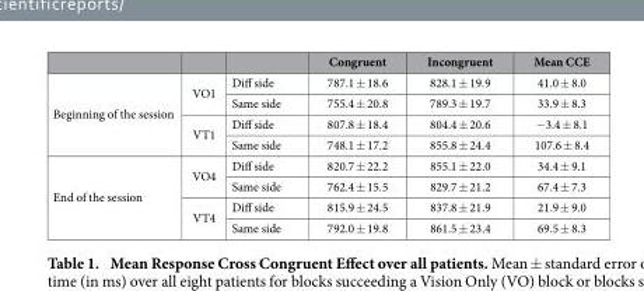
<table><thead><tr><td></td><td></td><td></td><td>Congruent</td><td>Incongruent</td><td>Mean CCE</td></tr></thead><tbody><tr><td rowspan="4">Beginning of the session</td><td rowspan="2">VO1</td><td>Diff side</td><td>787.1 ± 18.6</td><td>828.1 ± 19.9</td><td>41.0 ± 8.0</td></tr><tr><td>Same side</td><td>755.4 ± 20.8</td><td>789.3 ± 19.7</td><td>33.9 ± 8.3</td></tr><tr><td rowspan="2">VT1</td><td>Diff side</td><td>807.8 ± 18.4</td><td>804.4 ± 20.6</td><td>− 3.4 ± 8.1</td></tr><tr><td>Same side</td><td>748.1 ± 17.2</td><td>855.8 ± 24.4</td><td>107.6 ± 8.4</td></tr><tr><td rowspan="4">End of the session</td><td rowspan="2">VO4</td><td>Diff side</td><td>820.7 ± 22.2</td><td>855.1 ± 22.0</td><td>34.4 ± 9.1</td></tr><tr><td>Same side</td><td>762.4 ± 15.5</td><td>829.7 ± 21.2</td><td>67.4 ± 7.3</td></tr><tr><td rowspan="2">VT4</td><td>Diff side</td><td>815.9 ± 24.5</td><td>837.8 ± 21.9</td><td>21.9 ± 9.0</td></tr><tr><td>Same side</td><td>792.0 ± 19.8</td><td>861.5 ± 23.4</td><td>69.5 ± 8.3</td></tr></tbody></table>